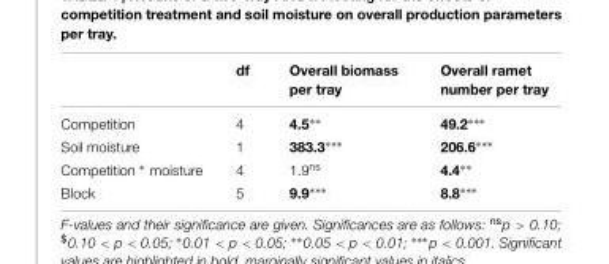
<table><thead><tr><td></td><td>df</td><td>Overall biomass per tray</td><td>Overall ramet number per tray</td></tr></thead><tbody><tr><td>Competition</td><td>4</td><td>4.5∗∗</td><td>49.2∗∗∗</td></tr><tr><td>Soil moisture</td><td>1</td><td>383.3∗∗∗</td><td>206.6∗∗∗</td></tr><tr><td>Competition ∗ moisture</td><td>4</td><td>1.9<sup>ns</sup></td><td>4.4∗∗</td></tr><tr><td>Block</td><td>5</td><td>9.9∗∗∗</td><td>8.8∗∗∗</td></tr></tbody></table>